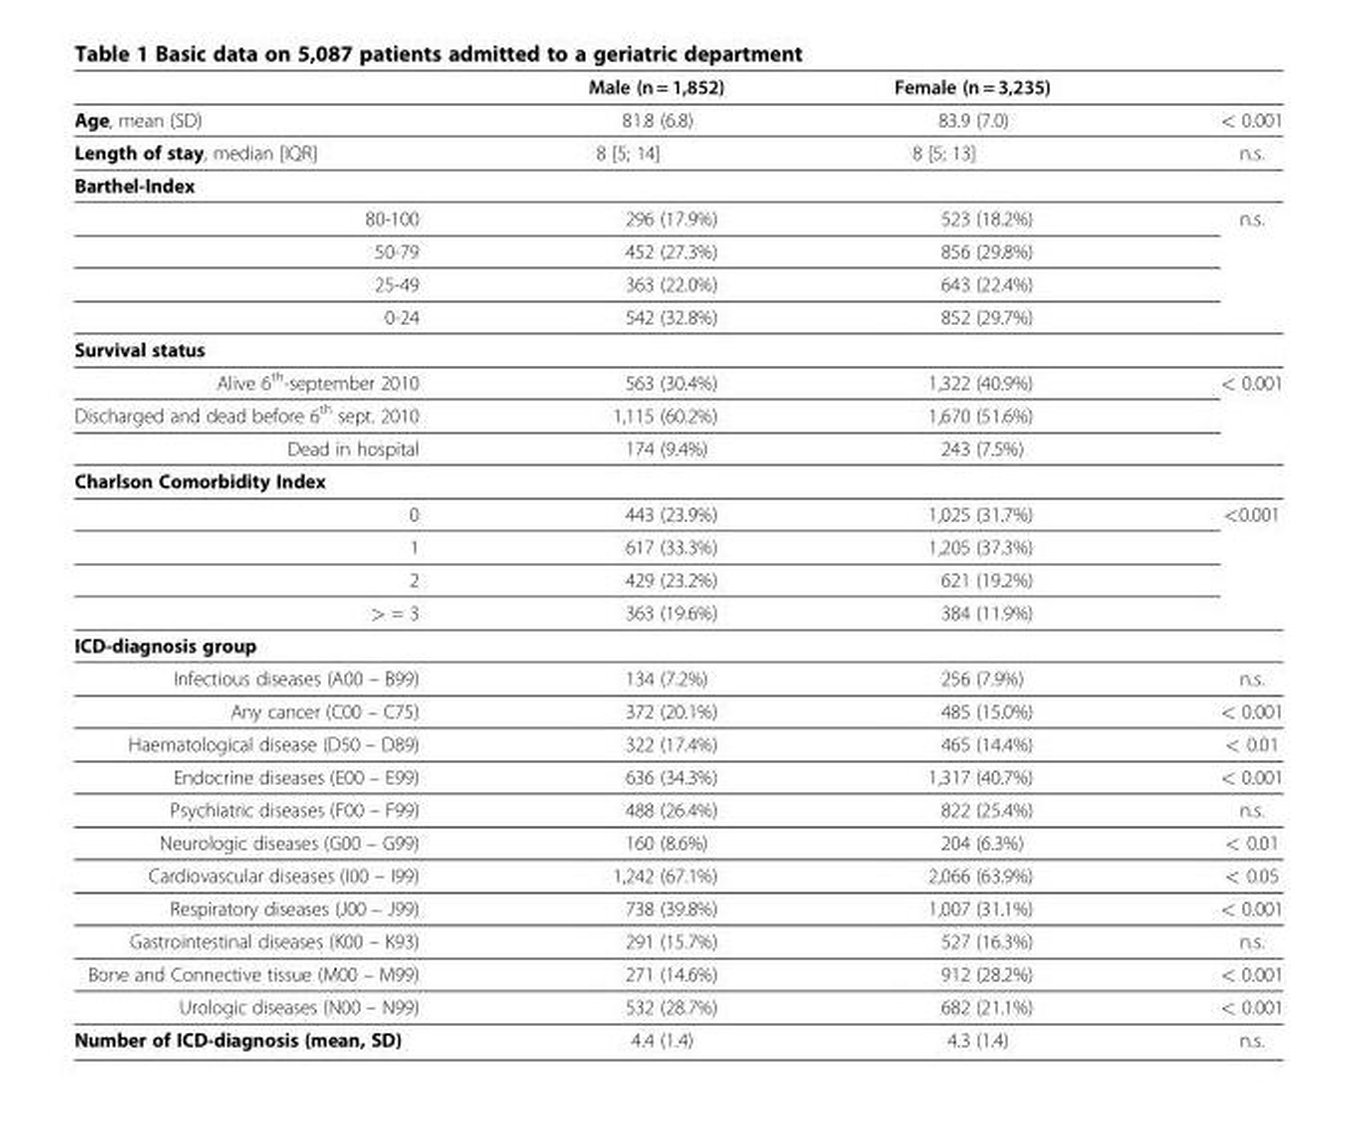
<table><thead><tr><td></td><td>Male (n = 1,852)</td><td>Female (n = 3,235)</td><td></td></tr></thead><tbody><tr><td>Age, mean (SD)</td><td>81.8 (6.8)</td><td>83.9 (7.0)</td><td>&lt; 0.001</td></tr><tr><td>Length of stay, median [IQR]</td><td>8 [5; 14]</td><td>8 [5; 13]</td><td>n.s.</td></tr><tr><td colspan="4">Barthel-Index</td></tr><tr><td>80-100</td><td>296 (17.9%)</td><td>523 (18.2%)</td><td rowspan="4">n.s.</td></tr><tr><td>50-79</td><td>452 (27.3%)</td><td>856 (29.8%)</td></tr><tr><td>25-49</td><td>363 (22.0%)</td><td>643 (22.4%)</td></tr><tr><td>0-24</td><td>542 (32.8%)</td><td>852 (29.7%)</td></tr><tr><td colspan="4">Survival status</td></tr><tr><td>Alive 6<sup>th</sup>-september 2010</td><td>563 (30.4%)</td><td>1,322 (40.9%)</td><td rowspan="3">&lt; 0.001</td></tr><tr><td>Discharged and dead before 6<sup>th</sup> sept. 2010</td><td>1,115 (60.2%)</td><td>1,670 (51.6%)</td></tr><tr><td>Dead in hospital</td><td>174 (9.4%)</td><td>243 (7.5%)</td></tr><tr><td colspan="4">Charlson Comorbidity Index</td></tr><tr><td>0</td><td>443 (23.9%)</td><td>1,025 (31.7%)</td><td rowspan="4">&lt;0.001</td></tr><tr><td>1</td><td>617 (33.3%)</td><td>1,205 (37.3%)</td></tr><tr><td>2</td><td>429 (23.2%)</td><td>621 (19.2%)</td></tr><tr><td>&gt; = 3</td><td>363 (19.6%)</td><td>384 (11.9%)</td></tr><tr><td colspan="4">ICD-diagnosis group</td></tr><tr><td>Infectious diseases (A00 – B99)</td><td>134 (7.2%)</td><td>256 (7.9%)</td><td>n.s.</td></tr><tr><td>Any cancer (C00 – C75)</td><td>372 (20.1%)</td><td>485 (15.0%)</td><td>&lt; 0.001</td></tr><tr><td>Haematological disease (D50 – D89)</td><td>322 (17.4%)</td><td>465 (14.4%)</td><td>&lt; 0.01</td></tr><tr><td>Endocrine diseases (E00 – E99)</td><td>636 (34.3%)</td><td>1,317 (40.7%)</td><td>&lt; 0.001</td></tr><tr><td>Psychiatric diseases (F00 – F99)</td><td>488 (26.4%)</td><td>822 (25.4%)</td><td>n.s.</td></tr><tr><td>Neurologic diseases (G00 – G99)</td><td>160 (8.6%)</td><td>204 (6.3%)</td><td>&lt; 0.01</td></tr><tr><td>Cardiovascular diseases (I00 – I99)</td><td>1,242 (67.1%)</td><td>2,066 (63.9%)</td><td>&lt; 0.05</td></tr><tr><td>Respiratory diseases (J00 – J99)</td><td>738 (39.8%)</td><td>1,007 (31.1%)</td><td>&lt; 0.001</td></tr><tr><td>Gastrointestinal diseases (K00 – K93)</td><td>291 (15.7%)</td><td>527 (16.3%)</td><td>n.s.</td></tr><tr><td>Bone and Connective tissue (M00 – M99)</td><td>271 (14.6%)</td><td>912 (28.2%)</td><td>&lt; 0.001</td></tr><tr><td>Urologic diseases (N00 – N99)</td><td>532 (28.7%)</td><td>682 (21.1%)</td><td>&lt; 0.001</td></tr><tr><td>Number of ICD-diagnosis (mean, SD)</td><td>4.4 (1.4)</td><td>4.3 (1.4)</td><td>n.s.</td></tr></tbody></table>